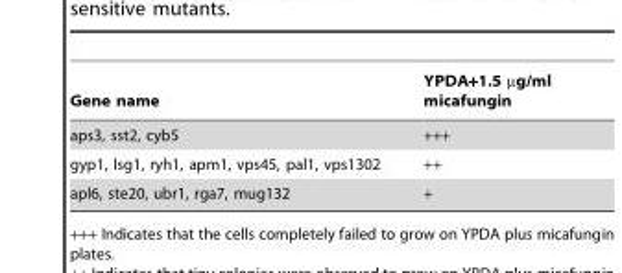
<table><thead><tr><td>Gene name</td><td>YPDA+1.5 µg/ml micafungin</td></tr></thead><tbody><tr><td>aps3, sst2, cyb5</td><td>+++</td></tr><tr><td>gyp1, lsg1, ryh1, apm1, vps45, pal1, vps1302</td><td>++</td></tr><tr><td>apl6, ste20, ubr1, rga7, mug132</td><td>+</td></tr></tbody></table>